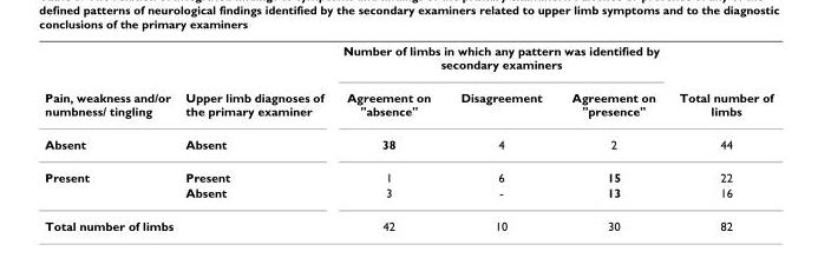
<table><thead><tr><td rowspan="2">Pain, weakness and/or numbness/ tingling</td><td rowspan="2">Upper limb diagnoses of the primary examiner</td><td colspan="3">Number of limbs in which any pattern was identified by secondary examiners</td><td rowspan="2">Total number of limbs</td></tr><tr><td>Agreement on &quot;absence&quot;</td><td>Disagreement</td><td>Agreement on &quot;presence&quot;</td></tr></thead><tbody><tr><td>Absent</td><td>Absent</td><td>38</td><td>4</td><td>2</td><td>44</td></tr><tr><td rowspan="2">Present</td><td>Present</td><td>1</td><td>6</td><td>15</td><td>22</td></tr><tr><td>Absent</td><td>3</td><td>-</td><td>13</td><td>16</td></tr><tr><td>Total number of limbs</td><td></td><td>42</td><td>10</td><td>30</td><td>82</td></tr></tbody></table>